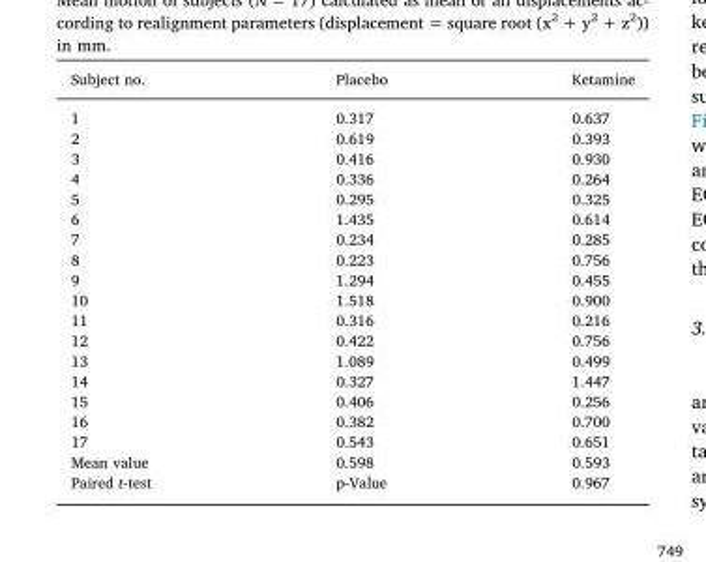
<table><thead><tr><td>Subject no.</td><td>Placebo</td><td>Ketamine</td></tr></thead><tbody><tr><td>1</td><td>0.317</td><td>0.637</td></tr><tr><td>2</td><td>0.619</td><td>0.393</td></tr><tr><td>3</td><td>0.416</td><td>0.930</td></tr><tr><td>4</td><td>0.336</td><td>0.264</td></tr><tr><td>5</td><td>0.295</td><td>0.325</td></tr><tr><td>6</td><td>1.435</td><td>0.614</td></tr><tr><td>7</td><td>0.234</td><td>0.285</td></tr><tr><td>8</td><td>0.223</td><td>0.756</td></tr><tr><td>9</td><td>1.294</td><td>0.455</td></tr><tr><td>10</td><td>1.518</td><td>0.900</td></tr><tr><td>11</td><td>0.316</td><td>0.216</td></tr><tr><td>12</td><td>0.422</td><td>0.756</td></tr><tr><td>13</td><td>1.089</td><td>0.499</td></tr><tr><td>14</td><td>0.327</td><td>1.447</td></tr><tr><td>15</td><td>0.406</td><td>0.256</td></tr><tr><td>16</td><td>0.382</td><td>0.700</td></tr><tr><td>17</td><td>0.543</td><td>0.651</td></tr><tr><td>Mean value</td><td>0.598</td><td>0.593</td></tr><tr><td>Paired t-test</td><td>p-Value</td><td>0.967</td></tr></tbody></table>